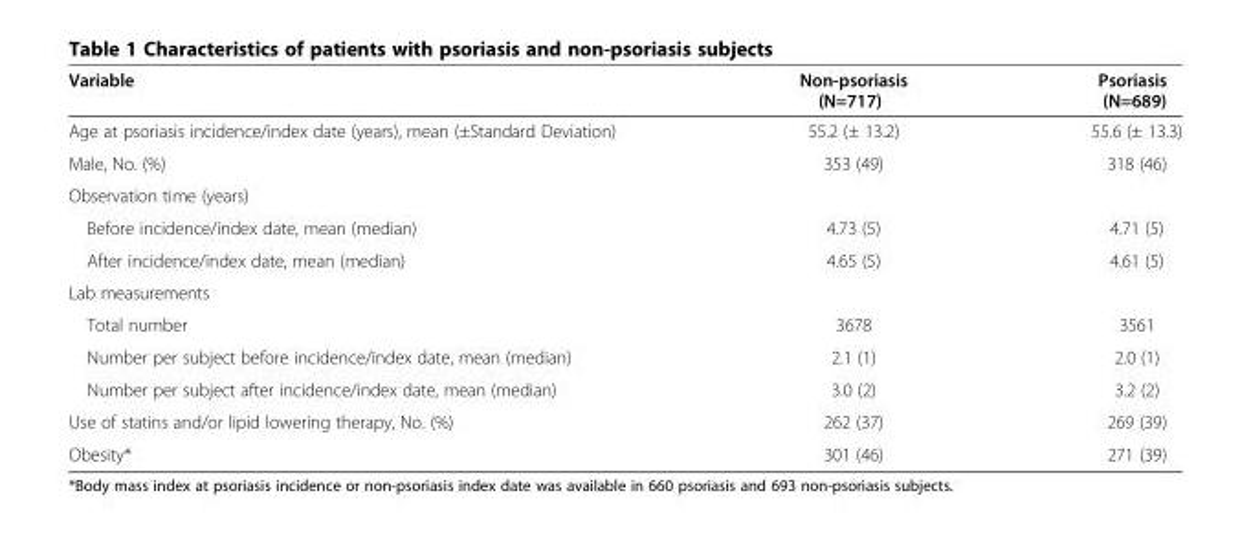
<table><thead><tr><td>Variable</td><td>Non-psoriasis (N=717)</td><td>Psoriasis (N=689)</td></tr></thead><tbody><tr><td>Age at psoriasis incidence/index date (years), mean (±Standard Deviation)</td><td>55.2 (± 13.2)</td><td>55.6 (± 13.3)</td></tr><tr><td>Male, No. (%)</td><td>353 (49)</td><td>318 (46)</td></tr><tr><td colspan="3">Observation time (years)</td></tr><tr><td>Before incidence/index date, mean (median)</td><td>4.73 (5)</td><td>4.71 (5)</td></tr><tr><td>After incidence/index date, mean (median)</td><td>4.65 (5)</td><td>4.61 (5)</td></tr><tr><td colspan="3">Lab measurements</td></tr><tr><td>Total number</td><td>3678</td><td>3561</td></tr><tr><td>Number per subject before incidence/index date, mean (median)</td><td>2.1 (1)</td><td>2.0 (1)</td></tr><tr><td>Number per subject after incidence/index date, mean (median)</td><td>3.0 (2)</td><td>3.2 (2)</td></tr><tr><td>Use of statins and/or lipid lowering therapy, No. (%)</td><td>262 (37)</td><td>269 (39)</td></tr><tr><td>Obesity*</td><td>301 (46)</td><td>271 (39)</td></tr></tbody></table>